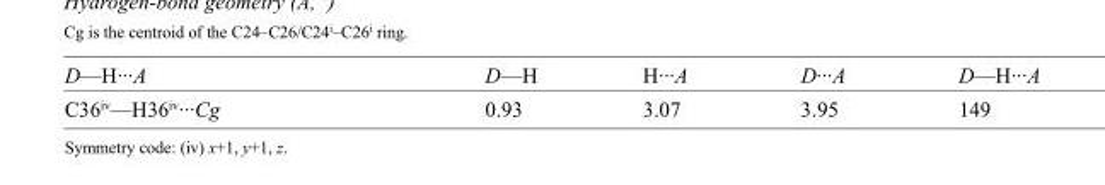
<table><tbody><tr><td>D—H···A</td><td>D—H</td><td>H···A</td><td>D···A</td><td>D—H···A</td></tr><tr><td>C36<sup>iv</sup>—H36<sup>iv</sup>···Cg</td><td>0.93</td><td>3.07</td><td>3.95</td><td>149</td></tr></tbody></table>